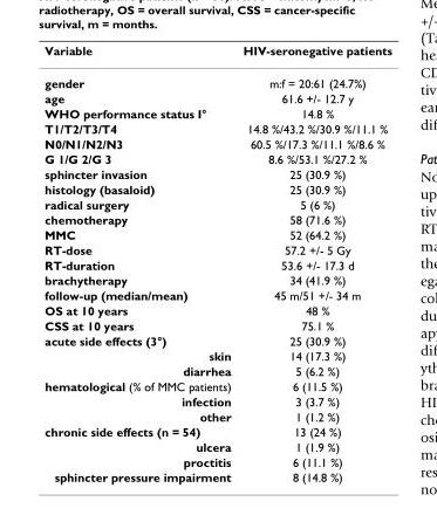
<table><thead><tr><td>Variable</td><td>HIV-seronegative patients</td></tr></thead><tbody><tr><td>gender</td><td>m:f = 20:61 (24.7%)</td></tr><tr><td>age</td><td>61.6 +/- 12.7 y</td></tr><tr><td>WHO performance status I°</td><td>14.8 %</td></tr><tr><td>T1/T2/T3/T4</td><td>14.8 %/43.2 %/30.9 %/11.1 %</td></tr><tr><td>N0/N1/N2/N3</td><td>60.5 %/17.3 %/11.1 %/8.6 %</td></tr><tr><td>G 1/G 2/G 3</td><td>8.6 %/53.1 %/27.2 %</td></tr><tr><td>sphincter invasion</td><td>25 (30.9 %)</td></tr><tr><td>histology (basaloid)</td><td>25 (30.9 %)</td></tr><tr><td>radical surgery</td><td>5 (6 %)</td></tr><tr><td>chemotherapy</td><td>58 (71.6 %)</td></tr><tr><td>MMC</td><td>52 (64.2 %)</td></tr><tr><td>RT-dose</td><td>57.2 +/- 5 Gy</td></tr><tr><td>RT-duration</td><td>53.6 +/- 17.3 d</td></tr><tr><td>brachytherapy</td><td>34 (41.9 %)</td></tr><tr><td>follow-up (median/mean)</td><td>45 m/51 +/- 34 m</td></tr><tr><td>OS at 10 years</td><td>48 %</td></tr><tr><td>CSS at 10 years</td><td>75.1 %</td></tr><tr><td>acute side effects (3°)</td><td>25 (30.9 %)</td></tr><tr><td>skin</td><td>14 (17.3 %)</td></tr><tr><td>diarrhea</td><td>5 (6.2 %)</td></tr><tr><td>hematological (% of MMC patients)</td><td>6 (11.5 %)</td></tr><tr><td>infection</td><td>3 (3.7 %)</td></tr><tr><td>other</td><td>1 (1.2 %)</td></tr><tr><td>chronic side effects (n = 54)</td><td>13 (24 %)</td></tr><tr><td>ulcera</td><td>1 (1.9 %)</td></tr><tr><td>proctitis</td><td>6 (11.1 %)</td></tr><tr><td>sphincter pressure impairment</td><td>8 (14.8 %)</td></tr></tbody></table>